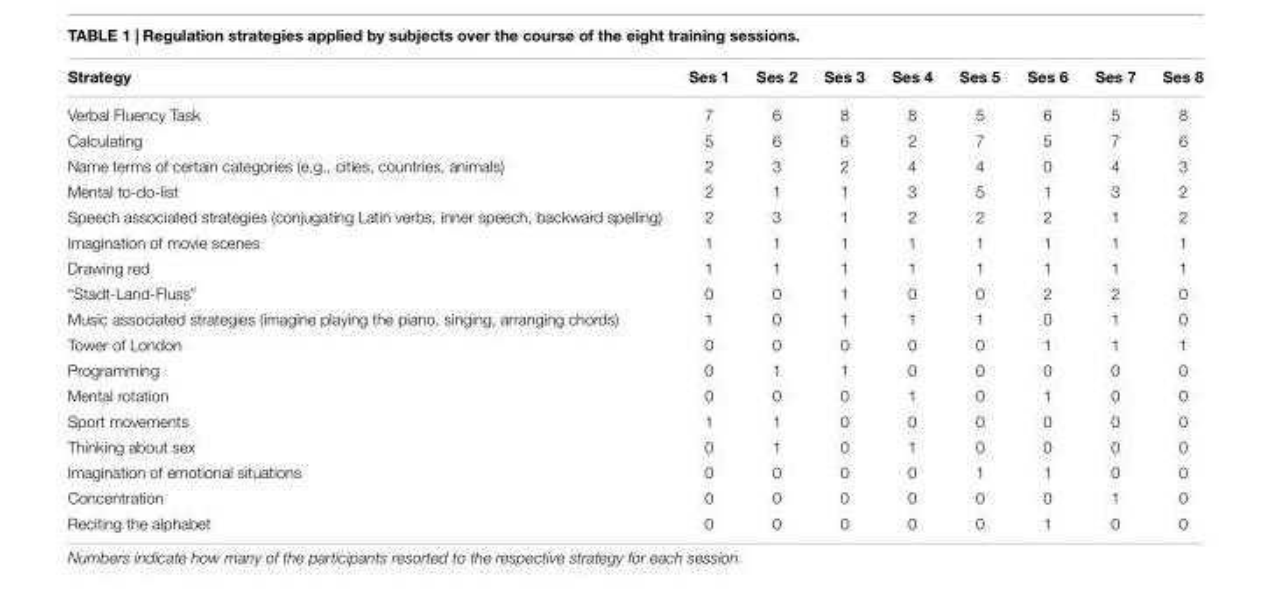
<table><thead><tr><td>Strategy</td><td>Ses 1</td><td>Ses 2</td><td>Ses 3</td><td>Ses 4</td><td>Ses 5</td><td>Ses 6</td><td>Ses 7</td><td>Ses 8</td></tr></thead><tbody><tr><td>Verbal Fluency Task</td><td>7</td><td>6</td><td>8</td><td>8</td><td>5</td><td>6</td><td>5</td><td>8</td></tr><tr><td>Calculating</td><td>5</td><td>6</td><td>6</td><td>2</td><td>7</td><td>5</td><td>7</td><td>6</td></tr><tr><td>Name terms of certain categories (e.g., cities, countries, animals)</td><td>2</td><td>3</td><td>2</td><td>4</td><td>4</td><td>0</td><td>4</td><td>3</td></tr><tr><td>Mental to-do-list</td><td>2</td><td>1</td><td>1</td><td>3</td><td>5</td><td>1</td><td>3</td><td>2</td></tr><tr><td>Speech associated strategies (conjugating Latin verbs, inner speech, backward spelling)</td><td>2</td><td>3</td><td>1</td><td>2</td><td>2</td><td>2</td><td>1</td><td>2</td></tr><tr><td>Imagination of movie scenes</td><td>1</td><td>1</td><td>1</td><td>1</td><td>1</td><td>1</td><td>1</td><td>1</td></tr><tr><td>Drawing red</td><td>1</td><td>1</td><td>1</td><td>1</td><td>1</td><td>1</td><td>1</td><td>1</td></tr><tr><td>“Stadt-Land-Fluss”</td><td>0</td><td>0</td><td>1</td><td>0</td><td>0</td><td>2</td><td>2</td><td>0</td></tr><tr><td>Music associated strategies (imagine playing the piano, singing, arranging chords)</td><td>1</td><td>0</td><td>1</td><td>1</td><td>1</td><td>0</td><td>1</td><td>0</td></tr><tr><td>Tower of London</td><td>0</td><td>0</td><td>0</td><td>0</td><td>0</td><td>1</td><td>1</td><td>1</td></tr><tr><td>Programming</td><td>0</td><td>1</td><td>1</td><td>0</td><td>0</td><td>0</td><td>0</td><td>0</td></tr><tr><td>Mental rotation</td><td>0</td><td>0</td><td>0</td><td>1</td><td>0</td><td>1</td><td>0</td><td>0</td></tr><tr><td>Sport movements</td><td>1</td><td>1</td><td>0</td><td>0</td><td>0</td><td>0</td><td>0</td><td>0</td></tr><tr><td>Thinking about sex</td><td>0</td><td>1</td><td>0</td><td>1</td><td>0</td><td>0</td><td>0</td><td>0</td></tr><tr><td>Imagination of emotional situations</td><td>0</td><td>0</td><td>0</td><td>0</td><td>1</td><td>1</td><td>0</td><td>0</td></tr><tr><td>Concentration</td><td>0</td><td>0</td><td>0</td><td>0</td><td>0</td><td>0</td><td>1</td><td>0</td></tr><tr><td>Reciting the alphabet</td><td>0</td><td>0</td><td>0</td><td>0</td><td>0</td><td>1</td><td>0</td><td>0</td></tr></tbody></table>